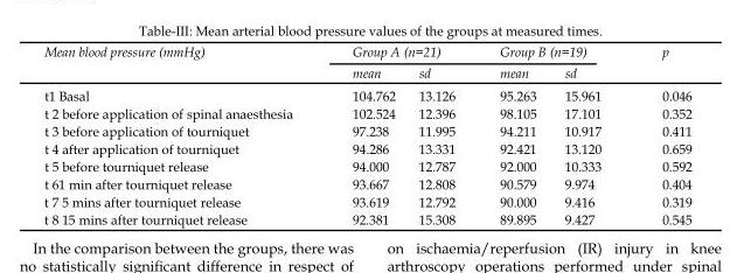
<table><thead><tr><td rowspan="2">Mean blood pressure (mmHg)</td><td colspan="2">Group A (n=21)</td><td colspan="2">Group B (n=19)</td><td rowspan="2">p</td></tr><tr><td>mean</td><td>sd</td><td>mean</td><td>sd</td></tr></thead><tbody><tr><td>t1 Basal</td><td>104.762</td><td>13.126</td><td>95.263</td><td>15.961</td><td>0.046</td></tr><tr><td>t 2 before application of spinal anaesthesia</td><td>102.524</td><td>12.396</td><td>98.105</td><td>17.101</td><td>0.352</td></tr><tr><td>t 3 before application of tourniquet</td><td>97.238</td><td>11.995</td><td>94.211</td><td>10.917</td><td>0.411</td></tr><tr><td>t 4 after application of tourniquet</td><td>94.286</td><td>13.331</td><td>92.421</td><td>13.120</td><td>0.659</td></tr><tr><td>t 5 before tourniquet release</td><td>94.000</td><td>12.787</td><td>92.000</td><td>10.333</td><td>0.592</td></tr><tr><td>t 61 min after tourniquet release</td><td>93.667</td><td>12.808</td><td>90.579</td><td>9.974</td><td>0.404</td></tr><tr><td>t 7 5 mins after tourniquet release</td><td>93.619</td><td>12.792</td><td>90.000</td><td>9.416</td><td>0.319</td></tr><tr><td>t 8 15 mins after tourniquet release</td><td>92.381</td><td>15.308</td><td>89.895</td><td>9.427</td><td>0.545</td></tr></tbody></table>